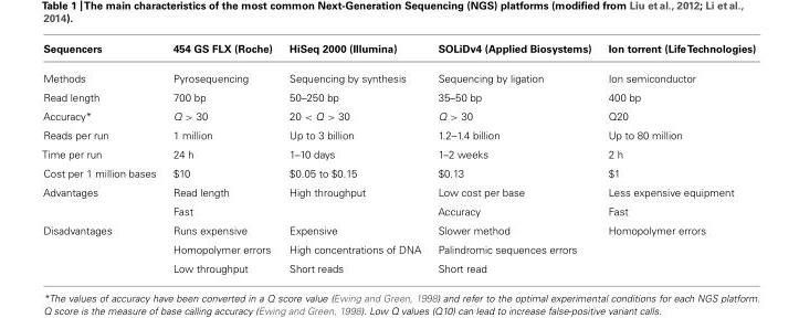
<table><thead><tr><td>Sequencers</td><td>454 GS FLX (Roche)</td><td>HiSeq 2000 (Illumina)</td><td>SOLiDv4 (Applied Biosystems)</td><td>Ion torrent (LifeTechnologies)</td></tr></thead><tbody><tr><td>Methods</td><td>Pyrosequencing</td><td>Sequencing by synthesis</td><td>Sequencing by ligation</td><td>Ion semiconductor</td></tr><tr><td>Read length</td><td>700 bp</td><td>50–250 bp</td><td>35–50 bp</td><td>400 bp</td></tr><tr><td>Accuracy*</td><td>Q &gt; 30</td><td>20 &lt; Q &gt; 30</td><td>Q &gt; 30</td><td>Q20</td></tr><tr><td>Reads per run</td><td>1 million</td><td>Up to 3 billion</td><td>1.2–1.4 billion</td><td>Up to 80 million</td></tr><tr><td>Time per run</td><td>24 h</td><td>1–10 days</td><td>1–2 weeks</td><td>2 h</td></tr><tr><td>Cost per 1 million bases</td><td>$10</td><td>$0.05 to $0.15</td><td>$0.13</td><td>$1</td></tr><tr><td rowspan="2">Advantages</td><td>Read length</td><td>High throughput</td><td>Low cost per base</td><td>Less expensive equipment</td></tr><tr><td>Fast</td><td></td><td>Accuracy</td><td>Fast</td></tr><tr><td rowspan="3">Disadvantages</td><td>Runs expensive</td><td>Expensive</td><td>Slower method</td><td>Homopolymer errors</td></tr><tr><td>Homopolymer errors</td><td>High concentrations of DNA</td><td>Palindromic sequences errors</td><td></td></tr><tr><td>Low throughput</td><td>Short reads</td><td>Short read</td><td></td></tr></tbody></table>